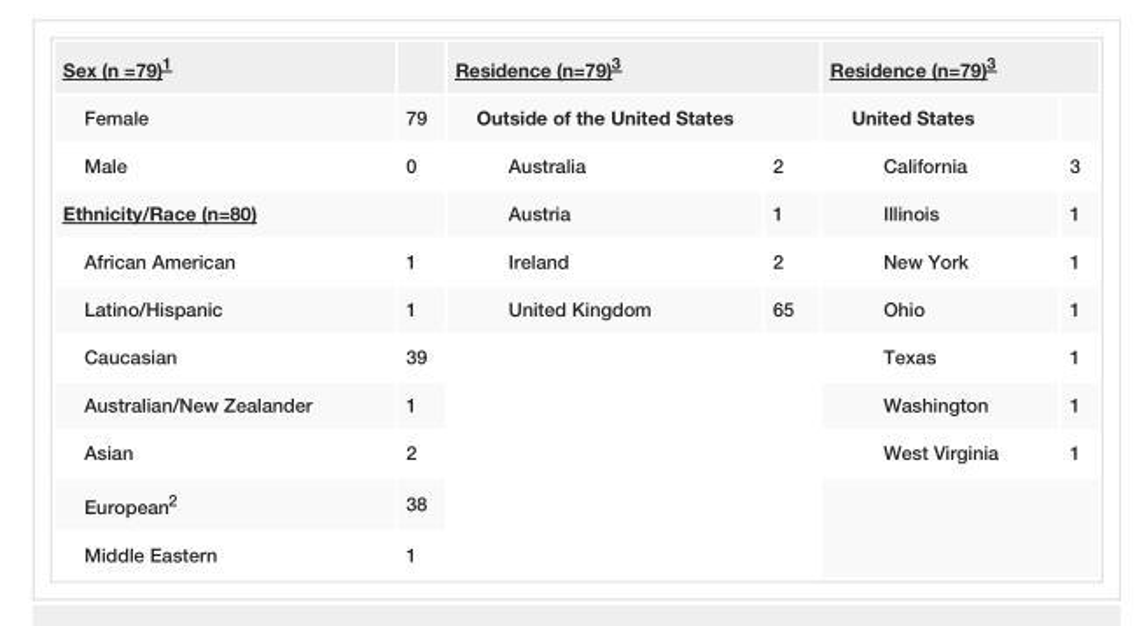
<table><tbody><tr><td>Sex (n =79)<sup>1</sup></td><td></td><td colspan="2">Residence (n=79)<sup>3</sup></td><td colspan="2">Residence (n=79)<sup>3</sup></td></tr><tr><td>Female</td><td>79</td><td colspan="2">Outside of the United States</td><td>United States</td><td></td></tr><tr><td>Male</td><td>0</td><td>Australia</td><td>2</td><td>California</td><td>3</td></tr><tr><td colspan="2">Ethnicity/Race (n=80)</td><td>Austria</td><td>1</td><td>Illinois</td><td>1</td></tr><tr><td>African American</td><td>1</td><td>Ireland</td><td>2</td><td>New York</td><td>1</td></tr><tr><td>Latino/Hispanic</td><td>1</td><td>United Kingdom</td><td>65</td><td>Ohio</td><td>1</td></tr><tr><td>Caucasian</td><td>39</td><td rowspan="5" colspan="2"></td><td>Texas</td><td>1</td></tr><tr><td>Australian/New Zealander</td><td>1</td><td>Washington</td><td>1</td></tr><tr><td>Asian</td><td>2</td><td>West Virginia</td><td>1</td></tr><tr><td>European<sup>2</sup></td><td>38</td><td rowspan="2" colspan="2"></td></tr><tr><td>Middle Eastern</td><td>1</td></tr></tbody></table>